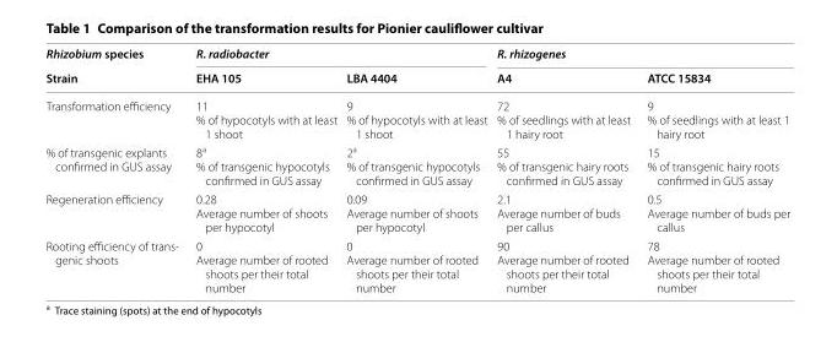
<table><thead><tr><td rowspan="2">Rhizobium species Strain</td><td colspan="2">R. radiobacter</td><td colspan="2">R. rhizogenes</td></tr><tr><td>EHA 105</td><td>LBA 4404</td><td>A4</td><td>ATCC 15834</td></tr></thead><tbody><tr><td>Transformation efficiency</td><td>11 % of hypocotyls with at least 1 shoot</td><td>9 % of hypocotyls with at least 1 shoot</td><td>72 % of seedlings with at least 1 hairy root</td><td>9 % of seedlings with at least 1 hairy root</td></tr><tr><td>% of transgenic explants confirmed in GUS assay</td><td>8<sup>a</sup> % of transgenic hypocotyls confirmed in GUS assay</td><td>2<sup>a</sup> % of transgenic hypocotyls confirmed in GUS assay</td><td>55 % of transgenic hairy roots confirmed in GUS assay</td><td>15 % of transgenic hairy roots confirmed in GUS assay</td></tr><tr><td>Regeneration efficiency</td><td>0.28 Average number of shoots per hypocotyl</td><td>0.09 Average number of shoots per hypocotyl</td><td>2.1 Average number of buds per callus</td><td>0.5 Average number of buds per callus</td></tr><tr><td>Rooting efficiency of trans‑ genic shoots</td><td>0 Average number of rooted shoots per their total number</td><td>0 Average number of rooted shoots per their total number</td><td>90 Average number of rooted shoots per their total number</td><td>78 Average number of rooted shoots per their total number</td></tr></tbody></table>